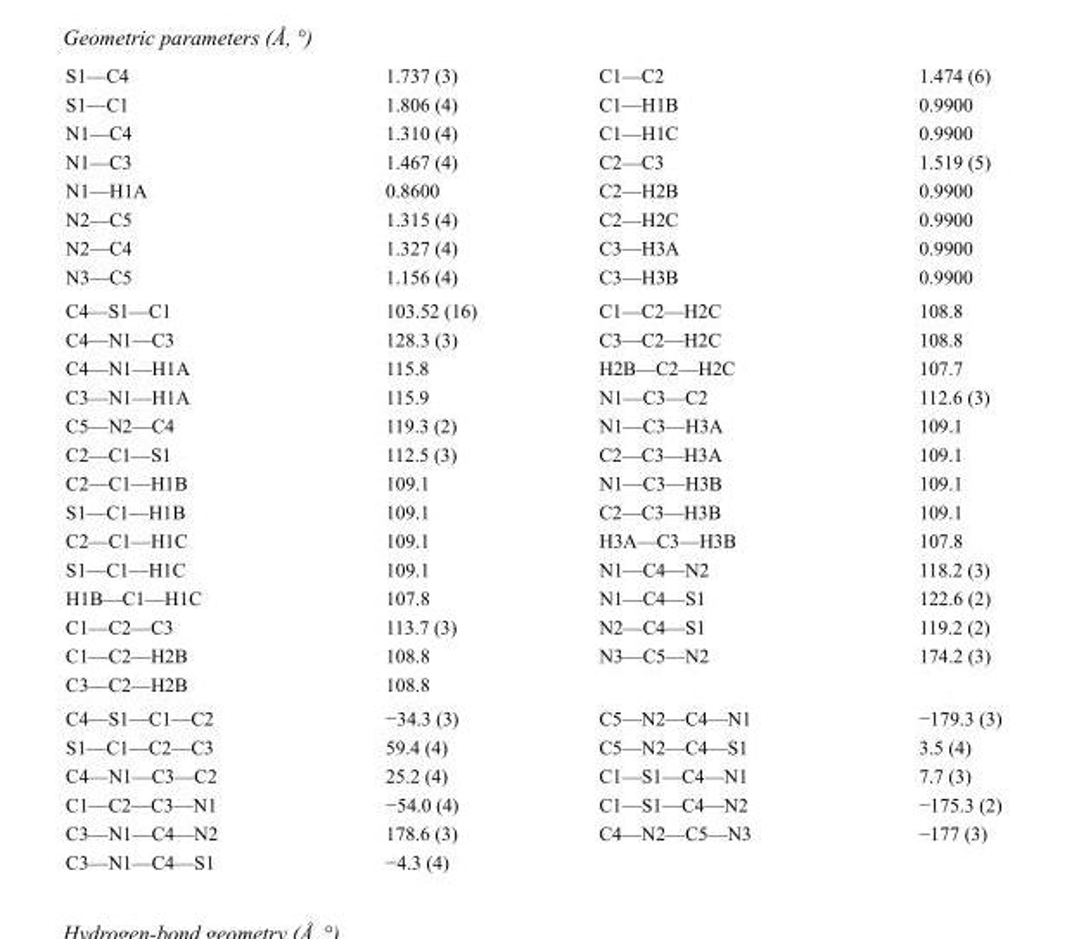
<table><tbody><tr><td>S1—C4</td><td>1.737 (3)</td><td>C1—C2</td><td>1.474 (6)</td></tr><tr><td>S1—C1</td><td>1.806 (4)</td><td>C1—H1B</td><td>0.9900</td></tr><tr><td>N1—C4</td><td>1.310 (4)</td><td>C1—H1C</td><td>0.9900</td></tr><tr><td>N1—C3</td><td>1.467 (4)</td><td>C2—C3</td><td>1.519 (5)</td></tr><tr><td>N1—H1A</td><td>0.8600</td><td>C2—H2B</td><td>0.9900</td></tr><tr><td>N2—C5</td><td>1.315 (4)</td><td>C2—H2C</td><td>0.9900</td></tr><tr><td>N2—C4</td><td>1.327 (4)</td><td>C3—H3A</td><td>0.9900</td></tr><tr><td>N3—C5</td><td>1.156 (4)</td><td>C3—H3B</td><td>0.9900</td></tr><tr><td>C4—S1—C1</td><td>103.52 (16)</td><td>C1—C2—H2C</td><td>108.8</td></tr><tr><td>C4—N1—C3</td><td>128.3 (3)</td><td>C3—C2—H2C</td><td>108.8</td></tr><tr><td>C4—N1—H1A</td><td>115.8</td><td>H2B—C2—H2C</td><td>107.7</td></tr><tr><td>C3—N1—H1A</td><td>115.9</td><td>N1—C3—C2</td><td>112.6 (3)</td></tr><tr><td>C5—N2—C4</td><td>119.3 (2)</td><td>N1—C3—H3A</td><td>109.1</td></tr><tr><td>C2—C1—S1</td><td>112.5 (3)</td><td>C2—C3—H3A</td><td>109.1</td></tr><tr><td>C2—C1—H1B</td><td>109.1</td><td>N1—C3—H3B</td><td>109.1</td></tr><tr><td>S1—C1—H1B</td><td>109.1</td><td>C2—C3—H3B</td><td>109.1</td></tr><tr><td>C2—C1—H1C</td><td>109.1</td><td>H3A—C3—H3B</td><td>107.8</td></tr><tr><td>S1—C1—H1C</td><td>109.1</td><td>N1—C4—N2</td><td>118.2 (3)</td></tr><tr><td>H1B—C1—H1C</td><td>107.8</td><td>N1—C4—S1</td><td>122.6 (2)</td></tr><tr><td>C1—C2—C3</td><td>113.7 (3)</td><td>N2—C4—S1</td><td>119.2 (2)</td></tr><tr><td>C1—C2—H2B</td><td>108.8</td><td>N3—C5—N2</td><td>174.2 (3)</td></tr><tr><td>C3—C2—H2B</td><td>108.8</td><td></td><td></td></tr><tr><td>C4—S1—C1—C2</td><td>−34.3 (3)</td><td>C5—N2—C4—N1</td><td>−179.3 (3)</td></tr><tr><td>S1—C1—C2—C3</td><td>59.4 (4)</td><td>C5—N2—C4—S1</td><td>3.5 (4)</td></tr><tr><td>C4—N1—C3—C2</td><td>25.2 (4)</td><td>C1—S1—C4—N1</td><td>7.7 (3)</td></tr><tr><td>C1—C2—C3—N1</td><td>−54.0 (4)</td><td>C1—S1—C4—N2</td><td>−175.3 (2)</td></tr><tr><td>C3—N1—C4—N2</td><td>178.6 (3)</td><td>C4—N2—C5—N3</td><td>−177 (3)</td></tr><tr><td>C3—N1—C4—S1</td><td>−4.3 (4)</td><td></td><td></td></tr></tbody></table>